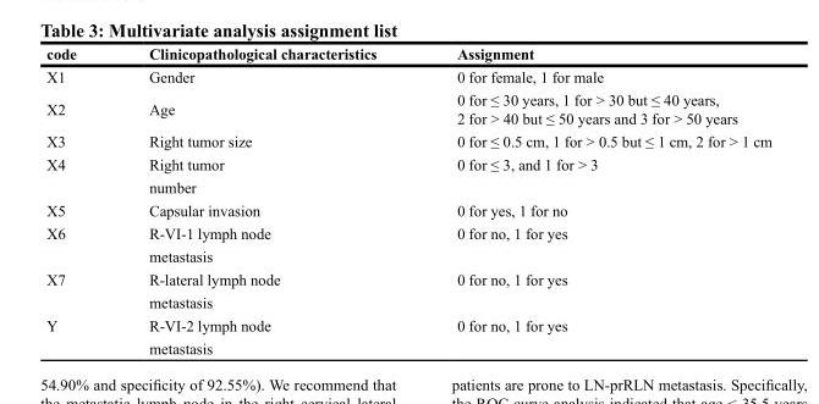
<table><thead><tr><td>code</td><td>Clinicopathological characteristics</td><td>Assignment</td></tr></thead><tbody><tr><td>X1</td><td>Gender</td><td>0 for female, 1 for male</td></tr><tr><td>X2</td><td>Age</td><td>0 for ≤ 30 years, 1 for &gt; 30 but ≤ 40 years, 2 for &gt; 40 but ≤ 50 years and 3 for &gt; 50 years</td></tr><tr><td>X3</td><td>Right tumor size</td><td>0 for ≤ 0.5 cm, 1 for &gt; 0.5 but ≤ 1 cm, 2 for &gt; 1 cm</td></tr><tr><td rowspan="2">X4</td><td>Right tumor</td><td>0 for ≤ 3, and 1 for &gt; 3</td></tr><tr><td>number</td><td></td></tr><tr><td>X5</td><td>Capsular invasion</td><td>0 for yes, 1 for no</td></tr><tr><td rowspan="2">X6</td><td>R-VI-1 lymph node</td><td>0 for no, 1 for yes</td></tr><tr><td>metastasis</td><td></td></tr><tr><td rowspan="2">X7</td><td>R-lateral lymph node</td><td>0 for no, 1 for yes</td></tr><tr><td>metastasis</td><td></td></tr><tr><td rowspan="2">Y</td><td>R-VI-2 lymph node</td><td>0 for no, 1 for yes</td></tr><tr><td>metastasis</td><td></td></tr></tbody></table>